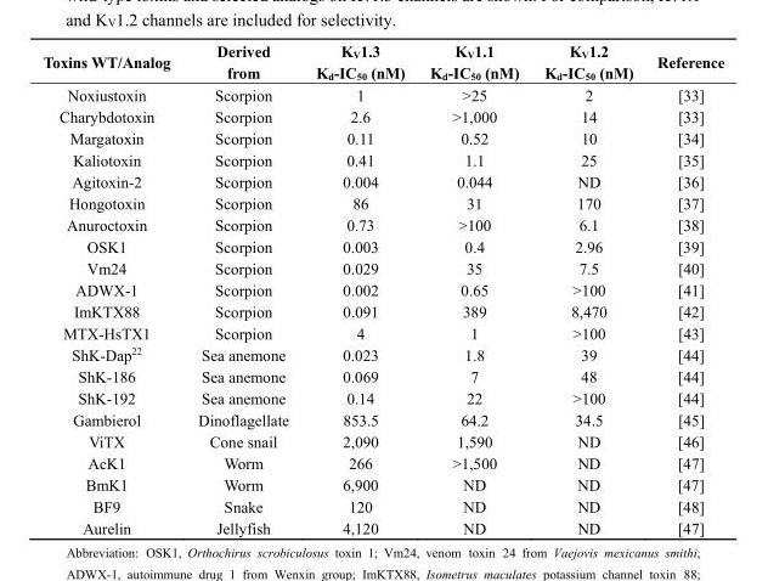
<table><thead><tr><td>Toxins WT/Analog</td><td>Derived from</td><td>K<sub>V</sub>1.3 K<sub>d</sub>-IC<sub>50</sub> (nM)</td><td>K<sub>V</sub>1.1 K<sub>d</sub>-IC<sub>50</sub> (nM)</td><td>K<sub>V</sub>1.2 K<sub>d</sub>-IC<sub>50</sub> (nM)</td><td>Reference</td></tr></thead><tbody><tr><td>Noxiustoxin</td><td>Scorpion</td><td>1</td><td>&gt;25</td><td>2</td><td>[33]</td></tr><tr><td>Charybdotoxin</td><td>Scorpion</td><td>2.6</td><td>&gt;1,000</td><td>14</td><td>[33]</td></tr><tr><td>Margatoxin</td><td>Scorpion</td><td>0.11</td><td>0.52</td><td>10</td><td>[34]</td></tr><tr><td>Kaliotoxin</td><td>Scorpion</td><td>0.41</td><td>1.1</td><td>25</td><td>[35]</td></tr><tr><td>Agitoxin-2</td><td>Scorpion</td><td>0.004</td><td>0.044</td><td>ND</td><td>[36]</td></tr><tr><td>Hongotoxin</td><td>Scorpion</td><td>86</td><td>31</td><td>170</td><td>[37]</td></tr><tr><td>Anuroctoxin</td><td>Scorpion</td><td>0.73</td><td>&gt;100</td><td>6.1</td><td>[38]</td></tr><tr><td>OSK1</td><td>Scorpion</td><td>0.003</td><td>0.4</td><td>2.96</td><td>[39]</td></tr><tr><td>Vm24</td><td>Scorpion</td><td>0.029</td><td>35</td><td>7.5</td><td>[40]</td></tr><tr><td>ADWX-1</td><td>Scorpion</td><td>0.002</td><td>0.65</td><td>&gt;100</td><td>[41]</td></tr><tr><td>ImKTX88</td><td>Scorpion</td><td>0.091</td><td>389</td><td>8,470</td><td>[42]</td></tr><tr><td>MTX-HsTX1</td><td>Scorpion</td><td>4</td><td>1</td><td>&gt;100</td><td>[43]</td></tr><tr><td>ShK-Dap<sup>22</sup></td><td>Sea anemone</td><td>0.023</td><td>1.8</td><td>39</td><td>[44]</td></tr><tr><td>ShK-186</td><td>Sea anemone</td><td>0.069</td><td>7</td><td>48</td><td>[44]</td></tr><tr><td>ShK-192</td><td>Sea anemone</td><td>0.14</td><td>22</td><td>&gt;100</td><td>[44]</td></tr><tr><td>Gambierol</td><td>Dinoflagellate</td><td>853.5</td><td>64.2</td><td>34.5</td><td>[45]</td></tr><tr><td>ViTX</td><td>Cone snail</td><td>2,090</td><td>1,590</td><td>ND</td><td>[46]</td></tr><tr><td>AcK1</td><td>Worm</td><td>266</td><td>&gt;1,500</td><td>ND</td><td>[47]</td></tr><tr><td>BmK1</td><td>Worm</td><td>6,900</td><td>ND</td><td>ND</td><td>[47]</td></tr><tr><td>BF9</td><td>Snake</td><td>120</td><td>ND</td><td>ND</td><td>[48]</td></tr><tr><td>Aurelin</td><td>Jellyfish</td><td>4,120</td><td>ND</td><td>ND</td><td>[47]</td></tr></tbody></table>